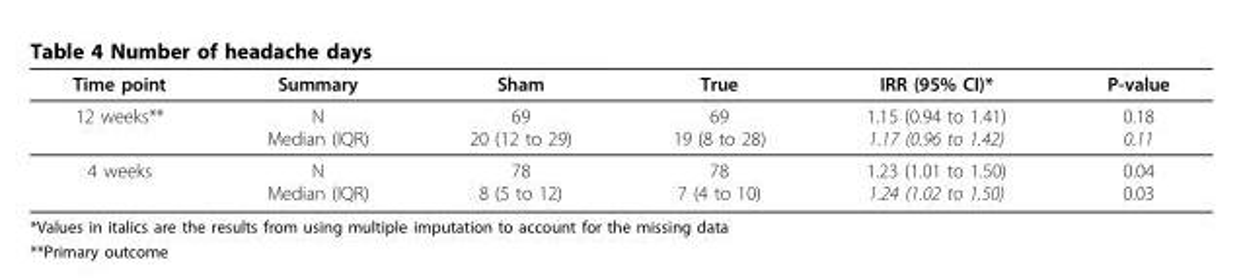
<table><thead><tr><td>Time point</td><td>Summary</td><td>Sham</td><td>True</td><td>IRR (95% CI)*</td><td>P-value</td></tr></thead><tbody><tr><td>12 weeks**</td><td>N Median (IQR)</td><td>69 20 (12 to 29)</td><td>69 19 (8 to 28)</td><td>1.15 (0.94 to 1.41) 1.17 (0.96 to 1.42)</td><td>0.18 0.11</td></tr><tr><td>4 weeks</td><td>N Median (IQR)</td><td>78 8 (5 to 12)</td><td>78 7 (4 to 10)</td><td>1.23 (1.01 to 1.50) 1.24 (1.02 to 1.50)</td><td>0.04 0.03</td></tr></tbody></table>